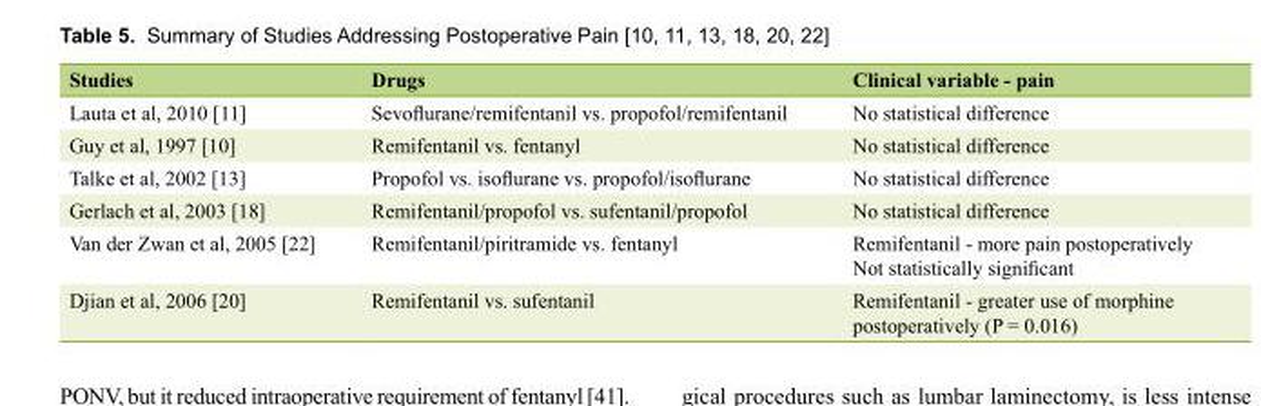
<table><thead><tr><td>Studies</td><td>Drugs</td><td>Clinical variable - pain</td></tr></thead><tbody><tr><td>Lauta et al, 2010 [11]</td><td>Sevoflurane/remifentanil vs. propofol/remifentanil</td><td>No statistical difference</td></tr><tr><td>Guy et al, 1997 [10]</td><td>Remifentanil vs. fentanyl</td><td>No statistical difference</td></tr><tr><td>Talke et al, 2002 [13]</td><td>Propofol vs. isoflurane vs. propofol/isoflurane</td><td>No statistical difference</td></tr><tr><td>Gerlach et al, 2003 [18]</td><td>Remifentanil/propofol vs. sufentanil/propofol</td><td>No statistical difference</td></tr><tr><td>Van der Zwan et al, 2005 [22]</td><td>Remifentanil/piritramide vs. fentanyl</td><td>Remifentanil - more pain postoperatively Not statistically significant</td></tr><tr><td>Djian et al, 2006 [20]</td><td>Remifentanil vs. sufentanil</td><td>Remifentanil - greater use of morphine postoperatively (P = 0.016)</td></tr></tbody></table>